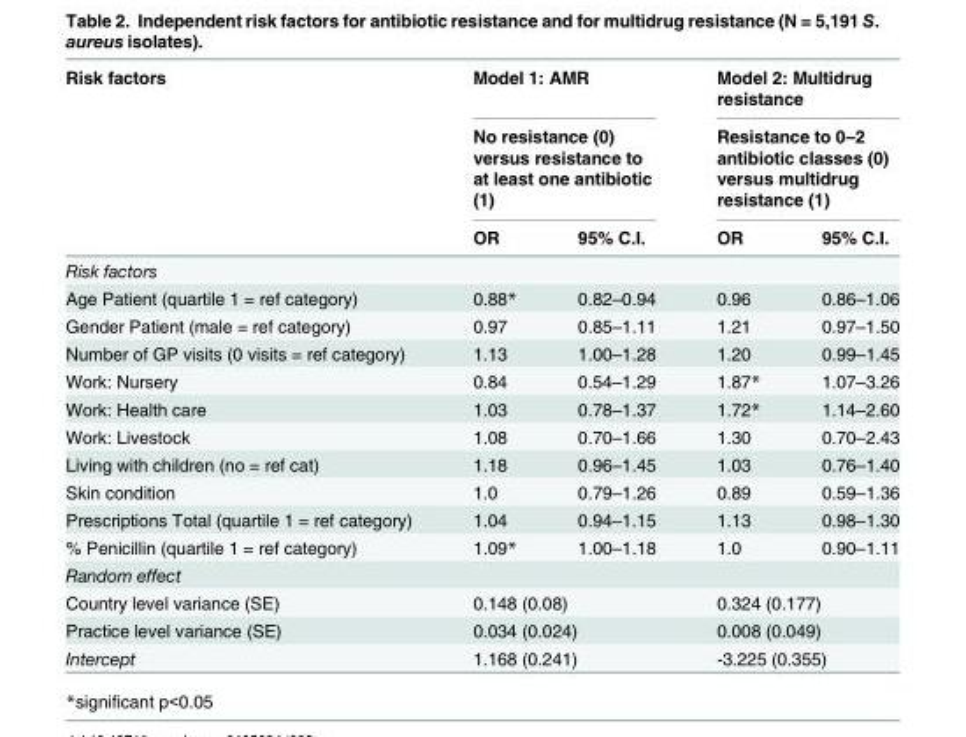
<table><thead><tr><td rowspan="3">Risk factors</td><td rowspan="2" colspan="2">Model 1: AMR No resistance (0) versus resistance to at least one antibiotic (1)</td><td rowspan="2" colspan="2">Model 2: Multidrug resistance Resistance to 0–2 antibiotic classes (0) versus multidrug resistance (1)</td></tr><tr></tr><tr><td>OR</td><td>95% C.I.</td><td>OR</td><td>95% C.I.</td></tr></thead><tbody><tr><td colspan="5">Risk factors</td></tr><tr><td>Age Patient (quartile 1 = ref category)</td><td>0.88*</td><td>0.82–0.94</td><td>0.96</td><td>0.86–1.06</td></tr><tr><td>Gender Patient (male = ref category)</td><td>0.97</td><td>0.85–1.11</td><td>1.21</td><td>0.97–1.50</td></tr><tr><td>Number of GP visits (0 visits = ref category)</td><td>1.13</td><td>1.00–1.28</td><td>1.20</td><td>0.99–1.45</td></tr><tr><td>Work: Nursery</td><td>0.84</td><td>0.54–1.29</td><td>1.87*</td><td>1.07–3.26</td></tr><tr><td>Work: Health care</td><td>1.03</td><td>0.78–1.37</td><td>1.72*</td><td>1.14–2.60</td></tr><tr><td>Work: Livestock</td><td>1.08</td><td>0.70–1.66</td><td>1.30</td><td>0.70–2.43</td></tr><tr><td>Living with children (no = ref cat)</td><td>1.18</td><td>0.96–1.45</td><td>1.03</td><td>0.76–1.40</td></tr><tr><td>Skin condition</td><td>1.0</td><td>0.79–1.26</td><td>0.89</td><td>0.59–1.36</td></tr><tr><td>Prescriptions Total (quartile 1 = ref category)</td><td>1.04</td><td>0.94–1.15</td><td>1.13</td><td>0.98–1.30</td></tr><tr><td>% Penicillin (quartile 1 = ref category)</td><td>1.09*</td><td>1.00–1.18</td><td>1.0</td><td>0.90–1.11</td></tr><tr><td colspan="5">Random effect</td></tr><tr><td>Country level variance (SE)</td><td colspan="2">0.148 (0.08)</td><td colspan="2">0.324 (0.177)</td></tr><tr><td>Practice level variance (SE)</td><td colspan="2">0.034 (0.024)</td><td colspan="2">0.008 (0.049)</td></tr><tr><td>Intercept</td><td colspan="2">1.168 (0.241)</td><td colspan="2">-3.225 (0.355)</td></tr></tbody></table>